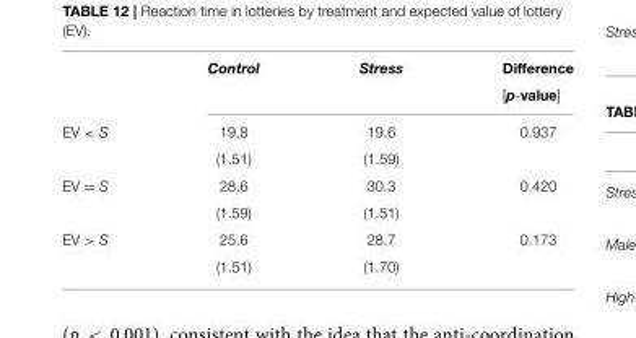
<table><thead><tr><td></td><td>Control</td><td>Stress</td><td>Difference [p-value]</td></tr></thead><tbody><tr><td rowspan="2">EV &lt; S</td><td>19.8</td><td>19.6</td><td>0.937</td></tr><tr><td>(1.51)</td><td>(1.59)</td><td></td></tr><tr><td rowspan="2">EV = S</td><td>28.6</td><td>30.3</td><td>0.420</td></tr><tr><td>(1.59)</td><td>(1.51)</td><td></td></tr><tr><td rowspan="2">EV &gt; S</td><td>25.6</td><td>28.7</td><td>0.173</td></tr><tr><td>(1.51)</td><td>(1.70)</td><td></td></tr></tbody></table>